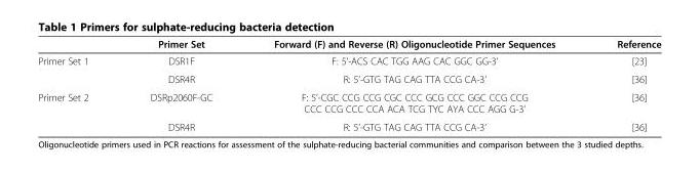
<table><thead><tr><td></td><td>Primer Set</td><td>Forward (F) and Reverse (R) Oligonucleotide Primer Sequences</td><td>Reference</td></tr></thead><tbody><tr><td rowspan="2">Primer Set 1</td><td>DSR1F</td><td>F: 5’-ACS CAC TGG AAG CAC GGC GG-3’</td><td>[23]</td></tr><tr><td>DSR4R</td><td>R: 5’-GTG TAG CAG TTA CCG CA-3’</td><td>[36]</td></tr><tr><td rowspan="2">Primer Set 2</td><td>DSRp2060F-GC</td><td>F: 5’-CGC CCG CCG CGC CCC GCG CCC GGC CCG CCG CCC CCG CCC CCA ACA TCG TYC AYA CCC AGG G-3’</td><td>[36]</td></tr><tr><td>DSR4R</td><td>R: 5’-GTG TAG CAG TTA CCG CA-3’</td><td>[36]</td></tr></tbody></table>